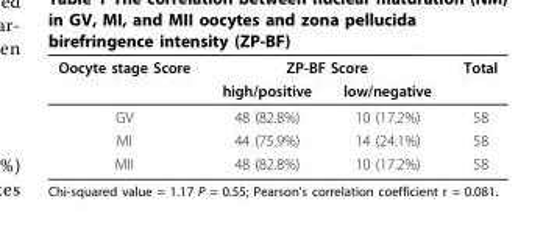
<table><thead><tr><td rowspan="2">Oocyte stage Score</td><td colspan="2">ZP-BF Score</td><td rowspan="2">Total</td></tr><tr><td>high/positive</td><td>low/negative</td></tr></thead><tbody><tr><td>GV</td><td>48 (82.8%)</td><td>10 (17.2%)</td><td>58</td></tr><tr><td>MI</td><td>44 (75.9%)</td><td>14 (24.1%)</td><td>58</td></tr><tr><td>MII</td><td>48 (82.8%)</td><td>10 (17.2%)</td><td>58</td></tr></tbody></table>